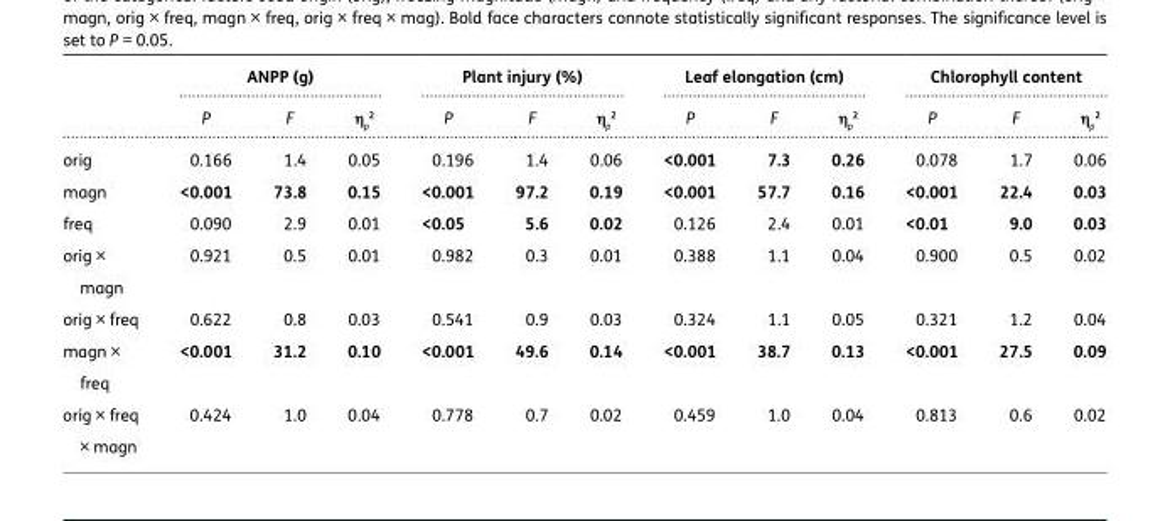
<table><thead><tr><td rowspan="2"></td><td colspan="3">ANPP (g)</td><td colspan="3">Plant injury (%)</td><td colspan="3">Leaf elongation (cm)</td><td colspan="3">Chlorophyll content</td></tr><tr><td>P</td><td>F</td><td>η<sub>p</sub> <sup>2</sup></td><td>P</td><td>F</td><td>η<sub>p</sub> <sup>2</sup></td><td>P</td><td>F</td><td>η<sub>p</sub> <sup>2</sup></td><td>P</td><td>F</td><td>η<sub>p</sub> <sup>2</sup></td></tr></thead><tbody><tr><td>orig</td><td>0.166</td><td>1.4</td><td>0.05</td><td>0.196</td><td>1.4</td><td>0.06</td><td>&lt;0.001</td><td>7.3</td><td>0.26</td><td>0.078</td><td>1.7</td><td>0.06</td></tr><tr><td>magn</td><td>&lt;0.001</td><td>73.8</td><td>0.15</td><td>&lt;0.001</td><td>97.2</td><td>0.19</td><td>&lt;0.001</td><td>57.7</td><td>0.16</td><td>&lt;0.001</td><td>22.4</td><td>0.03</td></tr><tr><td>freq</td><td>0.090</td><td>2.9</td><td>0.01</td><td>&lt;0.05</td><td>5.6</td><td>0.02</td><td>0.126</td><td>2.4</td><td>0.01</td><td>&lt;0.01</td><td>9.0</td><td>0.03</td></tr><tr><td>orig × magn</td><td>0.921</td><td>0.5</td><td>0.01</td><td>0.982</td><td>0.3</td><td>0.01</td><td>0.388</td><td>1.1</td><td>0.04</td><td>0.900</td><td>0.5</td><td>0.02</td></tr><tr><td>orig × freq</td><td>0.622</td><td>0.8</td><td>0.03</td><td>0.541</td><td>0.9</td><td>0.03</td><td>0.324</td><td>1.1</td><td>0.05</td><td>0.321</td><td>1.2</td><td>0.04</td></tr><tr><td>magn × freq</td><td>&lt;0.001</td><td>31.2</td><td>0.10</td><td>&lt;0.001</td><td>49.6</td><td>0.14</td><td>&lt;0.001</td><td>38.7</td><td>0.13</td><td>&lt;0.001</td><td>27.5</td><td>0.09</td></tr><tr><td>orig × freq × magn</td><td>0.424</td><td>1.0</td><td>0.04</td><td>0.778</td><td>0.7</td><td>0.02</td><td>0.459</td><td>1.0</td><td>0.04</td><td>0.813</td><td>0.6</td><td>0.02</td></tr></tbody></table>